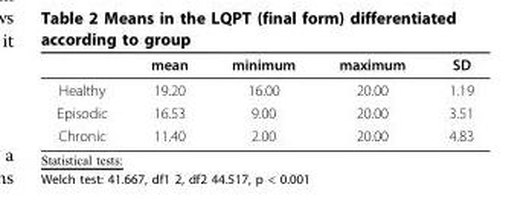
<table><thead><tr><td></td><td>mean</td><td>minimum</td><td>maximum</td><td>SD</td></tr></thead><tbody><tr><td>Healthy</td><td>19.20</td><td>16.00</td><td>20.00</td><td>1.19</td></tr><tr><td>Episodic</td><td>16.53</td><td>9.00</td><td>20.00</td><td>3.51</td></tr><tr><td>Chronic</td><td>11.40</td><td>2.00</td><td>20.00</td><td>4.83</td></tr></tbody></table>